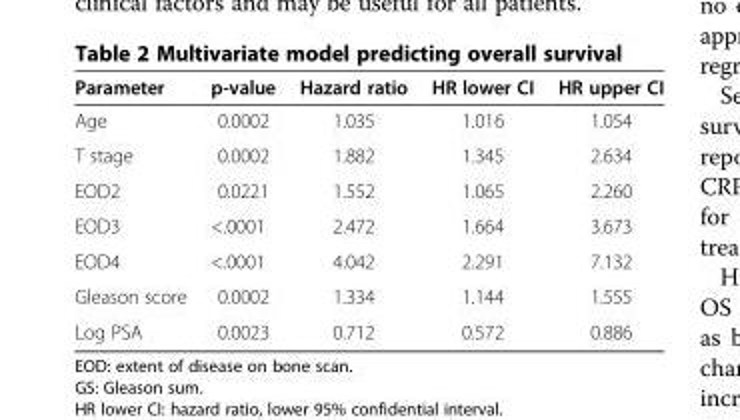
<table><thead><tr><td>Parameter</td><td>p-value</td><td>Hazard ratio</td><td>HR lower CI</td><td>HR upper CI</td></tr></thead><tbody><tr><td>Age</td><td>0.0002</td><td>1.035</td><td>1.016</td><td>1.054</td></tr><tr><td>T stage</td><td>0.0002</td><td>1.882</td><td>1.345</td><td>2.634</td></tr><tr><td>EOD2</td><td>0.0221</td><td>1.552</td><td>1.065</td><td>2.260</td></tr><tr><td>EOD3</td><td>&lt;.0001</td><td>2.472</td><td>1.664</td><td>3.673</td></tr><tr><td>EOD4</td><td>&lt;.0001</td><td>4.042</td><td>2.291</td><td>7.132</td></tr><tr><td>Gleason score</td><td>0.0002</td><td>1.334</td><td>1.144</td><td>1.555</td></tr><tr><td>Log PSA</td><td>0.0023</td><td>0.712</td><td>0.572</td><td>0.886</td></tr></tbody></table>